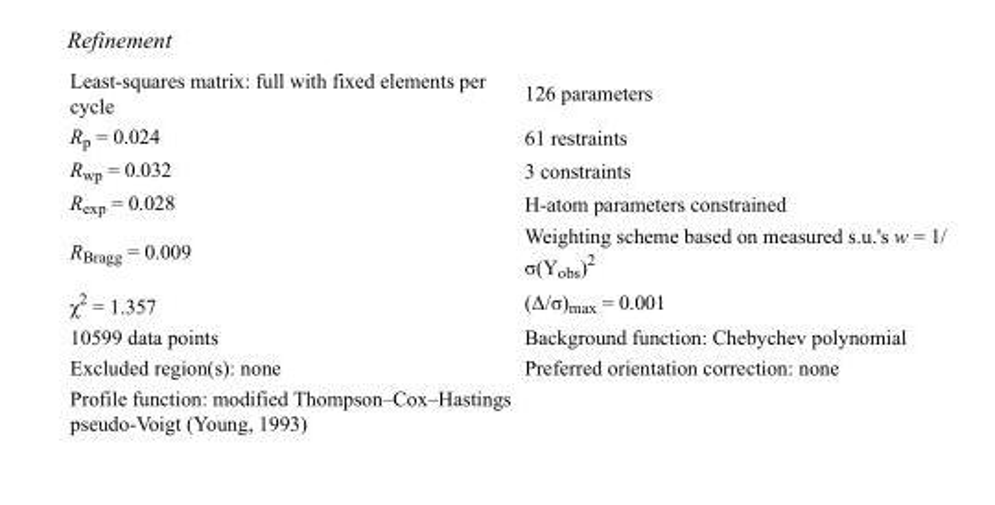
<table><tbody><tr><td>Least-squares matrix: full with fixed elements per cycle</td><td>126 parameters</td></tr><tr><td>R<sub>p</sub> = 0.024</td><td>61 restraints</td></tr><tr><td>R<sub>wp</sub> = 0.032</td><td>3 constraints</td></tr><tr><td>R<sub>exp</sub> = 0.028</td><td>H-atom parameters constrained</td></tr><tr><td>R<sub>Bragg</sub> = 0.009</td><td>Weighting scheme based on measured s.u.&#x27;s w = σ(Yobs)2</td></tr><tr><td>χ<sup>2</sup> = 1.357</td><td>(Δ/σ)<sub>max</sub> = 0.001</td></tr><tr><td>10599 data points</td><td>Background function: Chebychev polynomial</td></tr><tr><td>Excluded region(s): none</td><td>Preferred orientation correction: none</td></tr><tr><td>Profile function: modified Thompson–Cox–Hastings pseudo-Voigt (Young, 1993)</td><td></td></tr></tbody></table>